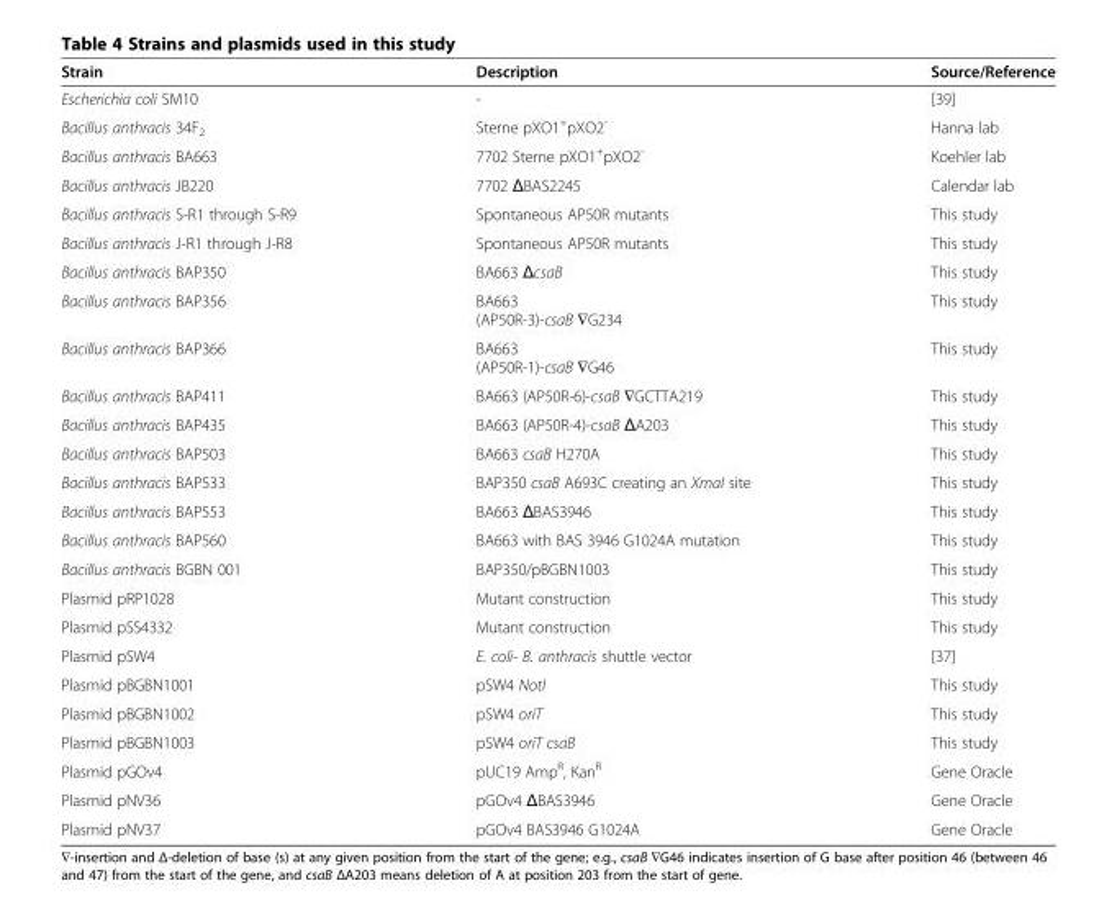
<table><thead><tr><td>Strain</td><td>Description</td><td>Source/Reference</td></tr></thead><tbody><tr><td>Escherichia coli SM10</td><td>-</td><td>[39]</td></tr><tr><td>Bacillus anthracis 34F<sub>2</sub></td><td>Sterne pXO1<sup>+</sup>pXO2<sup>-</sup></td><td>Hanna lab</td></tr><tr><td>Bacillus anthracis BA663</td><td>7702 Sterne pXO1<sup>+</sup>pXO2<sup>-</sup></td><td>Koehler lab</td></tr><tr><td>Bacillus anthracis JB220</td><td>7702 ΔBAS2245</td><td>Calendar lab</td></tr><tr><td>Bacillus anthracis S-R1 through S-R9</td><td>Spontaneous AP50R mutants</td><td>This study</td></tr><tr><td>Bacillus anthracis J-R1 through J-R8</td><td>Spontaneous AP50R mutants</td><td>This study</td></tr><tr><td>Bacillus anthracis BAP350</td><td>BA663 ΔcsaB</td><td>This study</td></tr><tr><td>Bacillus anthracis BAP356</td><td>BA663 (AP50R-3)-csaB ∇G234</td><td>This study</td></tr><tr><td>Bacillus anthracis BAP366</td><td>BA663 (AP50R-1)-csaB ∇G46</td><td>This study</td></tr><tr><td>Bacillus anthracis BAP411</td><td>BA663 (AP50R-6)-csaB ∇GCTTA219</td><td>This study</td></tr><tr><td>Bacillus anthracis BAP435</td><td>BA663 (AP50R-4)-csaB ΔA203</td><td>This study</td></tr><tr><td>Bacillus anthracis BAP503</td><td>BA663 csaB H270A</td><td>This study</td></tr><tr><td>Bacillus anthracis BAP533</td><td>BAP350 csaB A693C creating an XmaI site</td><td>This study</td></tr><tr><td>Bacillus anthracis BAP553</td><td>BA663 ΔBAS3946</td><td>This study</td></tr><tr><td>Bacillus anthracis BAP560</td><td>BA663 with BAS 3946 G1024A mutation</td><td>This study</td></tr><tr><td>Bacillus anthracis BGBN 001</td><td>BAP350/pBGBN1003</td><td>This study</td></tr><tr><td>Plasmid pRP1028</td><td>Mutant construction</td><td>This study</td></tr><tr><td>Plasmid pSS4332</td><td>Mutant construction</td><td>This study</td></tr><tr><td>Plasmid pSW4</td><td>E. coli- B. anthracis shuttle vector</td><td>[37]</td></tr><tr><td>Plasmid pBGBN1001</td><td>pSW4 NotI</td><td>This study</td></tr><tr><td>Plasmid pBGBN1002</td><td>pSW4 oriT</td><td>This study</td></tr><tr><td>Plasmid pBGBN1003</td><td>pSW4 oriT csaB</td><td>This study</td></tr><tr><td>Plasmid pGOv4</td><td>pUC19 Amp<sup>R</sup>, Kan<sup>R</sup></td><td>Gene Oracle</td></tr><tr><td>Plasmid pNV36</td><td>pGOv4 ΔBAS3946</td><td>Gene Oracle</td></tr><tr><td>Plasmid pNV37</td><td>pGOv4 BAS3946 G1024A</td><td>Gene Oracle</td></tr></tbody></table>